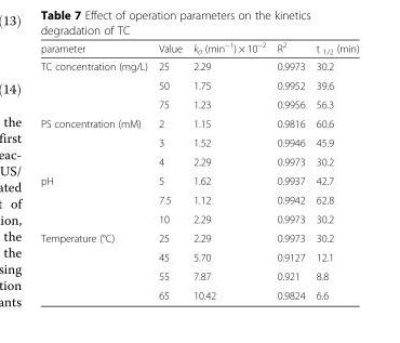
<table><thead><tr><td>parameter</td><td>Value</td><td>k<sub>0</sub> (min<sup>−1</sup>) × 10<sup>−2</sup></td><td>R<sup>2</sup></td><td>t <sub>1/2</sub> (min)</td></tr></thead><tbody><tr><td rowspan="3">TC concentration (mg/L)</td><td>25</td><td>2.29</td><td>0.9973</td><td>30.2</td></tr><tr><td>50</td><td>1.75</td><td>0.9952</td><td>39.6</td></tr><tr><td>75</td><td>1.23</td><td>0.9956</td><td>56.3</td></tr><tr><td rowspan="3">PS concentration (mM)</td><td>2</td><td>1.15</td><td>0.9816</td><td>60.6</td></tr><tr><td>3</td><td>1.52</td><td>0.9946</td><td>45.9</td></tr><tr><td>4</td><td>2.29</td><td>0.9973</td><td>30.2</td></tr><tr><td rowspan="3">pH</td><td>5</td><td>1.62</td><td>0.9937</td><td>42.7</td></tr><tr><td>7.5</td><td>1.12</td><td>0.9942</td><td>62.8</td></tr><tr><td>10</td><td>2.29</td><td>0.9973</td><td>30.2</td></tr><tr><td rowspan="4">Temperature (°C)</td><td>25</td><td>2.29</td><td>0.9973</td><td>30.2</td></tr><tr><td>45</td><td>5.70</td><td>0.9127</td><td>12.1</td></tr><tr><td>55</td><td>7.87</td><td>0.921</td><td>8.8</td></tr><tr><td>65</td><td>10.42</td><td>0.9824</td><td>6.6</td></tr></tbody></table>